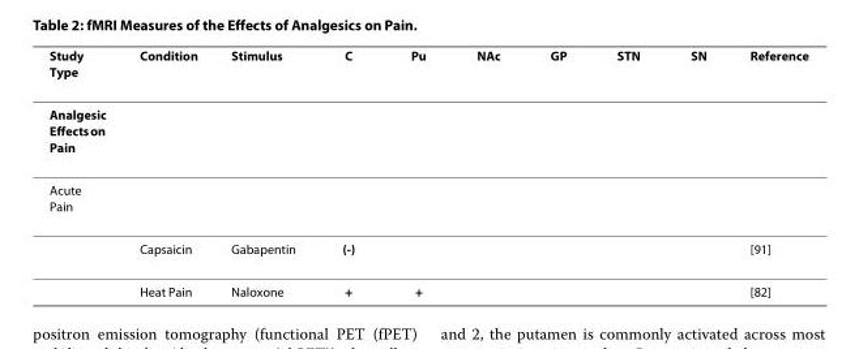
<table><thead><tr><td>Study Type</td><td>Condition</td><td>Stimulus</td><td>C</td><td>Pu</td><td>NAc</td><td>GP</td><td>STN</td><td>SN</td><td>Reference</td></tr></thead><tbody><tr><td colspan="10">Analgesic Effects on Pain</td></tr><tr><td colspan="10">Acute Pain</td></tr><tr><td></td><td>Capsaicin</td><td>Gabapentin</td><td>(-)</td><td></td><td></td><td></td><td></td><td></td><td>[91]</td></tr><tr><td></td><td>Heat Pain</td><td>Naloxone</td><td>+</td><td>+</td><td></td><td></td><td></td><td></td><td>[82]</td></tr></tbody></table>